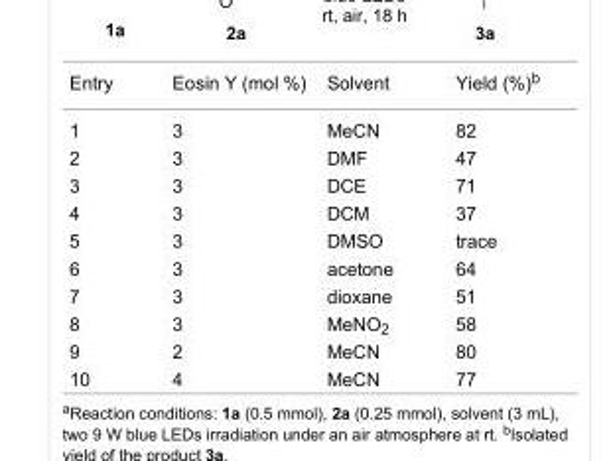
<table><tbody><tr><td>Entry</td><td>Eosin Y (mol %)</td><td>Solvent</td><td>Yield (%)<sup>b</sup></td></tr><tr><td>1</td><td>3</td><td>MeCN</td><td>82</td></tr><tr><td>2</td><td>3</td><td>DMF</td><td>47</td></tr><tr><td>3</td><td>3</td><td>DCE</td><td>71</td></tr><tr><td>4</td><td>3</td><td>DCM</td><td>37</td></tr><tr><td>5</td><td>3</td><td>DMSO</td><td>trace</td></tr><tr><td>6</td><td>3</td><td>acetone</td><td>64</td></tr><tr><td>7</td><td>3</td><td>dioxane</td><td>51</td></tr><tr><td>8</td><td>3</td><td>MeNO<sub>2</sub></td><td>58</td></tr><tr><td>9</td><td>2</td><td>MeCN</td><td>80</td></tr><tr><td>10</td><td>4</td><td>MeCN</td><td>77</td></tr></tbody></table>